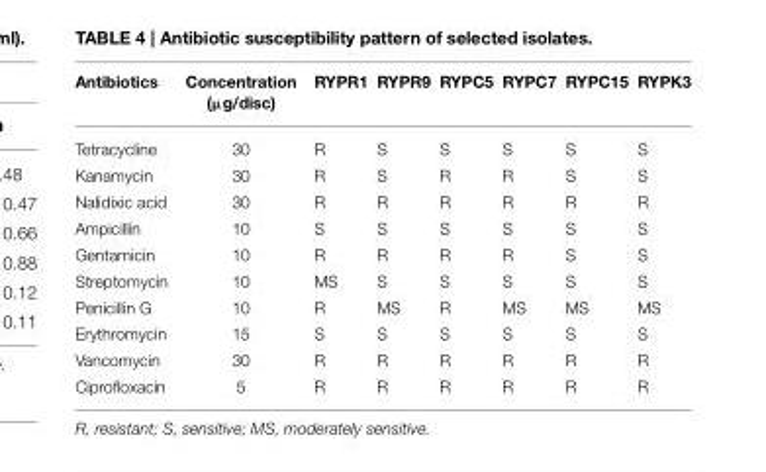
<table><thead><tr><td>Antibiotics</td><td>Concentration (µg/disc)</td><td>RYPR1</td><td>RYPR9</td><td>RYPC5</td><td>RYPC7</td><td>RYPC15</td><td>RYPK3</td></tr></thead><tbody><tr><td>Tetracycline</td><td>30</td><td>R</td><td>S</td><td>S</td><td>S</td><td>S</td><td>S</td></tr><tr><td>Kanamycin</td><td>30</td><td>R</td><td>S</td><td>R</td><td>R</td><td>S</td><td>S</td></tr><tr><td>Nalidixic acid</td><td>30</td><td>R</td><td>R</td><td>R</td><td>R</td><td>R</td><td>R</td></tr><tr><td>Ampicillin</td><td>10</td><td>S</td><td>S</td><td>S</td><td>S</td><td>S</td><td>S</td></tr><tr><td>Gentamicin</td><td>10</td><td>R</td><td>R</td><td>R</td><td>R</td><td>S</td><td>S</td></tr><tr><td>Streptomycin</td><td>10</td><td>MS</td><td>S</td><td>S</td><td>S</td><td>S</td><td>S</td></tr><tr><td>Penicillin G</td><td>10</td><td>R</td><td>MS</td><td>R</td><td>MS</td><td>MS</td><td>MS</td></tr><tr><td>Erythromycin</td><td>15</td><td>S</td><td>S</td><td>S</td><td>S</td><td>S</td><td>S</td></tr><tr><td>Vancomycin</td><td>30</td><td>R</td><td>R</td><td>R</td><td>R</td><td>R</td><td>R</td></tr><tr><td>Ciprofloxacin</td><td>5</td><td>R</td><td>R</td><td>R</td><td>R</td><td>R</td><td>R</td></tr></tbody></table>